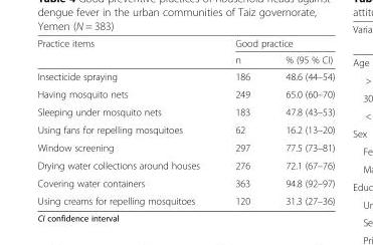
<table><thead><tr><td rowspan="2">Practice items</td><td colspan="2">Good practice</td></tr><tr><td>n</td><td>% (95 % CI)</td></tr></thead><tbody><tr><td>Insecticide spraying</td><td>186</td><td>48.6 (44–54)</td></tr><tr><td>Having mosquito nets</td><td>249</td><td>65.0 (60–70)</td></tr><tr><td>Sleeping under mosquito nets</td><td>183</td><td>47.8 (43–53)</td></tr><tr><td>Using fans for repelling mosquitoes</td><td>62</td><td>16.2 (13–20)</td></tr><tr><td>Window screening</td><td>297</td><td>77.5 (73–81)</td></tr><tr><td>Drying water collections around houses</td><td>276</td><td>72.1 (67–76)</td></tr><tr><td>Covering water containers</td><td>363</td><td>94.8 (92–97)</td></tr><tr><td>Using creams for repelling mosquitoes</td><td>120</td><td>31.3 (27–36)</td></tr></tbody></table>